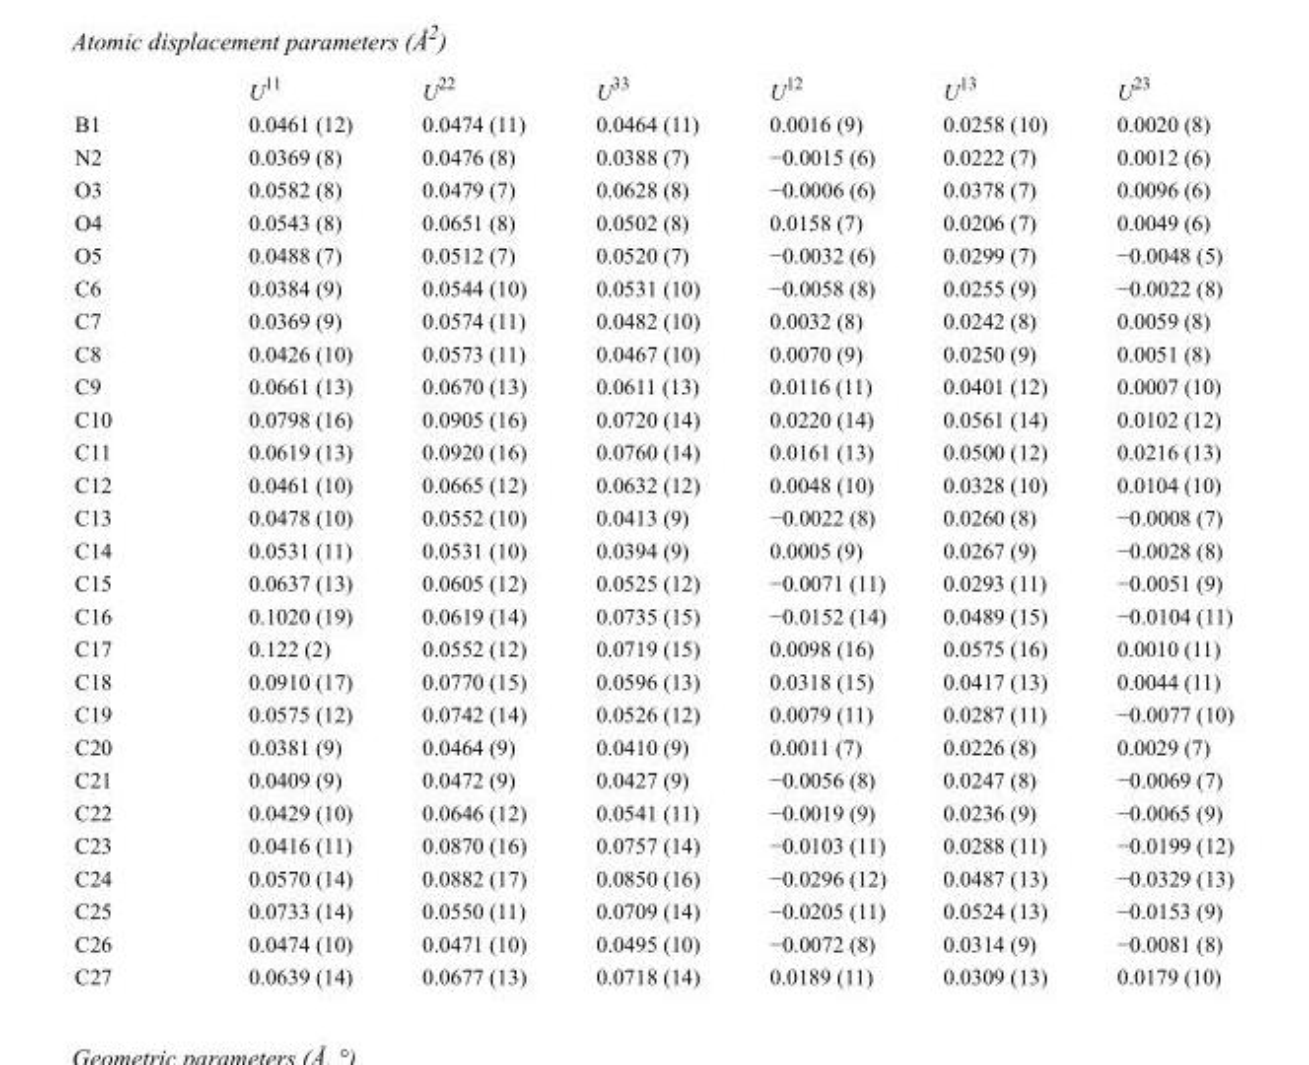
<table><thead><tr><td></td><td>U<sup>11</sup></td><td>U<sup>22</sup></td><td>U<sup>33</sup></td><td>U<sup>12</sup></td><td>U<sup>13</sup></td><td>U<sup>23</sup></td></tr></thead><tbody><tr><td>B1</td><td>0.0461 (12)</td><td>0.0474 (11)</td><td>0.0464 (11)</td><td>0.0016 (9)</td><td>0.0258 (10)</td><td>0.0020 (8)</td></tr><tr><td>N2</td><td>0.0369 (8)</td><td>0.0476 (8)</td><td>0.0388 (7)</td><td>−0.0015 (6)</td><td>0.0222 (7)</td><td>0.0012 (6)</td></tr><tr><td>O3</td><td>0.0582 (8)</td><td>0.0479 (7)</td><td>0.0628 (8)</td><td>−0.0006 (6)</td><td>0.0378 (7)</td><td>0.0096 (6)</td></tr><tr><td>O4</td><td>0.0543 (8)</td><td>0.0651 (8)</td><td>0.0502 (8)</td><td>0.0158 (7)</td><td>0.0206 (7)</td><td>0.0049 (6)</td></tr><tr><td>O5</td><td>0.0488 (7)</td><td>0.0512 (7)</td><td>0.0520 (7)</td><td>−0.0032 (6)</td><td>0.0299 (7)</td><td>−0.0048 (5)</td></tr><tr><td>C6</td><td>0.0384 (9)</td><td>0.0544 (10)</td><td>0.0531 (10)</td><td>−0.0058 (8)</td><td>0.0255 (9)</td><td>−0.0022 (8)</td></tr><tr><td>C7</td><td>0.0369 (9)</td><td>0.0574 (11)</td><td>0.0482 (10)</td><td>0.0032 (8)</td><td>0.0242 (8)</td><td>0.0059 (8)</td></tr><tr><td>C8</td><td>0.0426 (10)</td><td>0.0573 (11)</td><td>0.0467 (10)</td><td>0.0070 (9)</td><td>0.0250 (9)</td><td>0.0051 (8)</td></tr><tr><td>C9</td><td>0.0661 (13)</td><td>0.0670 (13)</td><td>0.0611 (13)</td><td>0.0116 (11)</td><td>0.0401 (12)</td><td>0.0007 (10)</td></tr><tr><td>C10</td><td>0.0798 (16)</td><td>0.0905 (16)</td><td>0.0720 (14)</td><td>0.0220 (14)</td><td>0.0561 (14)</td><td>0.0102 (12)</td></tr><tr><td>C11</td><td>0.0619 (13)</td><td>0.0920 (16)</td><td>0.0760 (14)</td><td>0.0161 (13)</td><td>0.0500 (12)</td><td>0.0216 (13)</td></tr><tr><td>C12</td><td>0.0461 (10)</td><td>0.0665 (12)</td><td>0.0632 (12)</td><td>0.0048 (10)</td><td>0.0328 (10)</td><td>0.0104 (10)</td></tr><tr><td>C13</td><td>0.0478 (10)</td><td>0.0552 (10)</td><td>0.0413 (9)</td><td>−0.0022 (8)</td><td>0.0260 (8)</td><td>−0.0008 (7)</td></tr><tr><td>C14</td><td>0.0531 (11)</td><td>0.0531 (10)</td><td>0.0394 (9)</td><td>0.0005 (9)</td><td>0.0267 (9)</td><td>−0.0028 (8)</td></tr><tr><td>C15</td><td>0.0637 (13)</td><td>0.0605 (12)</td><td>0.0525 (12)</td><td>−0.0071 (11)</td><td>0.0293 (11)</td><td>−0.0051 (9)</td></tr><tr><td>C16</td><td>0.1020 (19)</td><td>0.0619 (14)</td><td>0.0735 (15)</td><td>−0.0152 (14)</td><td>0.0489 (15)</td><td>−0.0104 (11)</td></tr><tr><td>C17</td><td>0.122 (2)</td><td>0.0552 (12)</td><td>0.0719 (15)</td><td>0.0098 (16)</td><td>0.0575 (16)</td><td>0.0010 (11)</td></tr><tr><td>C18</td><td>0.0910 (17)</td><td>0.0770 (15)</td><td>0.0596 (13)</td><td>0.0318 (15)</td><td>0.0417 (13)</td><td>0.0044 (11)</td></tr><tr><td>C19</td><td>0.0575 (12)</td><td>0.0742 (14)</td><td>0.0526 (12)</td><td>0.0079 (11)</td><td>0.0287 (11)</td><td>−0.0077 (10)</td></tr><tr><td>C20</td><td>0.0381 (9)</td><td>0.0464 (9)</td><td>0.0410 (9)</td><td>0.0011 (7)</td><td>0.0226 (8)</td><td>0.0029 (7)</td></tr><tr><td>C21</td><td>0.0409 (9)</td><td>0.0472 (9)</td><td>0.0427 (9)</td><td>−0.0056 (8)</td><td>0.0247 (8)</td><td>−0.0069 (7)</td></tr><tr><td>C22</td><td>0.0429 (10)</td><td>0.0646 (12)</td><td>0.0541 (11)</td><td>−0.0019 (9)</td><td>0.0236 (9)</td><td>−0.0065 (9)</td></tr><tr><td>C23</td><td>0.0416 (11)</td><td>0.0870 (16)</td><td>0.0757 (14)</td><td>−0.0103 (11)</td><td>0.0288 (11)</td><td>−0.0199 (12)</td></tr><tr><td>C24</td><td>0.0570 (14)</td><td>0.0882 (17)</td><td>0.0850 (16)</td><td>−0.0296 (12)</td><td>0.0487 (13)</td><td>−0.0329 (13)</td></tr><tr><td>C25</td><td>0.0733 (14)</td><td>0.0550 (11)</td><td>0.0709 (14)</td><td>−0.0205 (11)</td><td>0.0524 (13)</td><td>−0.0153 (9)</td></tr><tr><td>C26</td><td>0.0474 (10)</td><td>0.0471 (10)</td><td>0.0495 (10)</td><td>−0.0072 (8)</td><td>0.0314 (9)</td><td>−0.0081 (8)</td></tr><tr><td>C27</td><td>0.0639 (14)</td><td>0.0677 (13)</td><td>0.0718 (14)</td><td>0.0189 (11)</td><td>0.0309 (13)</td><td>0.0179 (10)</td></tr></tbody></table>